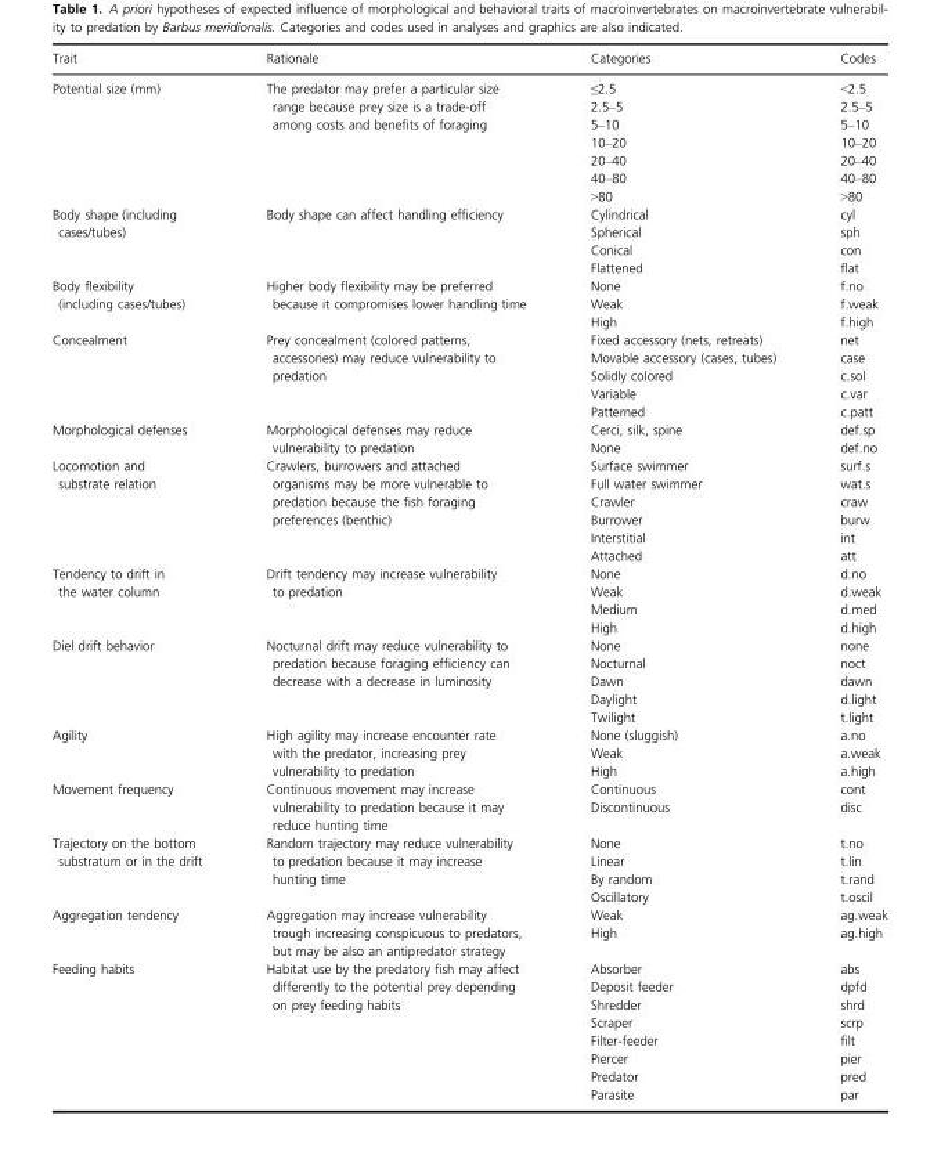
<table><thead><tr><td>Trait</td><td>Rationale</td><td>Categories</td><td>Codes</td></tr></thead><tbody><tr><td rowspan="7">Potential size (mm)</td><td rowspan="7">The predator may prefer a particular size range because prey size is a trade-off among costs and benefits of foraging</td><td>≤2.5</td><td>&lt;2.5</td></tr><tr><td>2.5–5</td><td>2.5–5</td></tr><tr><td>5–10</td><td>5–10</td></tr><tr><td>10–20</td><td>10–20</td></tr><tr><td>20–40</td><td>20–40</td></tr><tr><td>40–80</td><td>40–80</td></tr><tr><td>&gt;80</td><td>&gt;80</td></tr><tr><td rowspan="4">Body shape (including cases/tubes)</td><td rowspan="4">Body shape can affect handling efficiency</td><td>Cylindrical</td><td>cyl</td></tr><tr><td>Spherical</td><td>sph</td></tr><tr><td>Conical</td><td>con</td></tr><tr><td>Flattened</td><td>flat</td></tr><tr><td rowspan="3">Body flexibility (including cases/tubes)</td><td rowspan="3">Higher body flexibility may be preferred because it compromises lower handling time</td><td>None</td><td>f.no</td></tr><tr><td>Weak</td><td>f.weak</td></tr><tr><td>High</td><td>f.high</td></tr><tr><td rowspan="5">Concealment</td><td rowspan="5">Prey concealment (colored patterns, accessories) may reduce vulnerability to predation</td><td>Fixed accessory (nets, retreats)</td><td>net</td></tr><tr><td>Movable accessory (cases, tubes)</td><td>case</td></tr><tr><td>Solidly colored</td><td>c.sol</td></tr><tr><td>Variable</td><td>c.var</td></tr><tr><td>Patterned</td><td>c.patt</td></tr><tr><td rowspan="2">Morphological defenses</td><td rowspan="2">Morphological defenses may reduce vulnerability to predation</td><td>Cerci, silk, spine</td><td>def.sp</td></tr><tr><td>None</td><td>def.no</td></tr><tr><td rowspan="6">Locomotion and substrate relation</td><td rowspan="6">Crawlers, burrowers and attached organisms may be more vulnerable to predation because the fish foraging preferences (benthic)</td><td>Surface swimmer</td><td>surf.s</td></tr><tr><td>Full water swimmer</td><td>wat.s</td></tr><tr><td>Crawler</td><td>craw</td></tr><tr><td>Burrower</td><td>burw</td></tr><tr><td>Interstitial</td><td>int</td></tr><tr><td>Attached</td><td>att</td></tr><tr><td rowspan="4">Tendency to drift in the water column</td><td rowspan="4">Drift tendency may increase vulnerability to predation</td><td>None</td><td>d.no</td></tr><tr><td>Weak</td><td>d.weak</td></tr><tr><td>Medium</td><td>d.med</td></tr><tr><td>High</td><td>d.high</td></tr><tr><td rowspan="5">Diel drift behavior</td><td rowspan="5">Nocturnal drift may reduce vulnerability to predation because foraging efficiency can decrease with a decrease in luminosity</td><td>None</td><td>none</td></tr><tr><td>Nocturnal</td><td>noct</td></tr><tr><td>Dawn</td><td>dawn</td></tr><tr><td>Daylight</td><td>d.light</td></tr><tr><td>Twilight</td><td>t.light</td></tr><tr><td rowspan="3">Agility</td><td rowspan="3">High agility may increase encounter rate with the predator, increasing prey vulnerability to predation</td><td>None (sluggish)</td><td>a.no</td></tr><tr><td>Weak</td><td>a.weak</td></tr><tr><td>High</td><td>a.high</td></tr><tr><td rowspan="2">Movement frequency</td><td rowspan="2">Continuous movement may increase vulnerability to predation because it may reduce hunting time</td><td>Continuous</td><td>cont</td></tr><tr><td>Discontinuous</td><td>disc</td></tr><tr><td rowspan="4">Trajectory on the bottom substratum or in the drift</td><td rowspan="4">Random trajectory may reduce vulnerability to predation because it may increase hunting time</td><td>None</td><td>t.no</td></tr><tr><td>Linear</td><td>t.lin</td></tr><tr><td>By random</td><td>t.rand</td></tr><tr><td>Oscillatory</td><td>t.oscil</td></tr><tr><td rowspan="2">Aggregation tendency</td><td rowspan="2">Aggregation may increase vulnerability trough increasing conspicuous to predators, but may be also an antipredator strategy</td><td>Weak</td><td>ag.weak</td></tr><tr><td>High</td><td>ag.high</td></tr><tr><td rowspan="8">Feeding habits</td><td rowspan="8">Habitat use by the predatory fish may affect differently to the potential prey depending on prey feeding habits</td><td>Absorber</td><td>abs</td></tr><tr><td>Deposit feeder</td><td>dpfd</td></tr><tr><td>Shredder</td><td>shrd</td></tr><tr><td>Scraper</td><td>scrp</td></tr><tr><td>Filter-feeder</td><td>filt</td></tr><tr><td>Piercer</td><td>pier</td></tr><tr><td>Predator</td><td>pred</td></tr><tr><td>Parasite</td><td>par</td></tr></tbody></table>